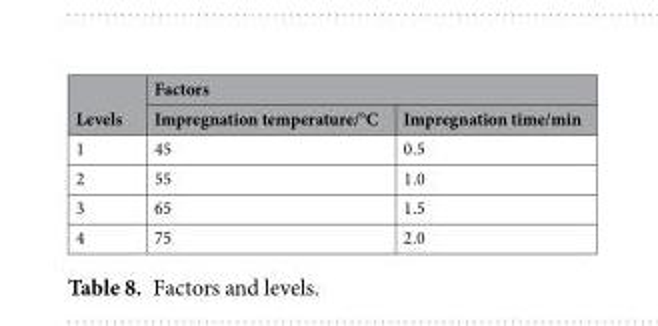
<table><thead><tr><td rowspan="2">Levels</td><td colspan="2">Factors</td></tr><tr><td>Impregnation temperature/°C</td><td>Impregnation time/min</td></tr></thead><tbody><tr><td>1</td><td>45</td><td>0.5</td></tr><tr><td>2</td><td>55</td><td>1.0</td></tr><tr><td>3</td><td>65</td><td>1.5</td></tr><tr><td>4</td><td>75</td><td>2.0</td></tr></tbody></table>